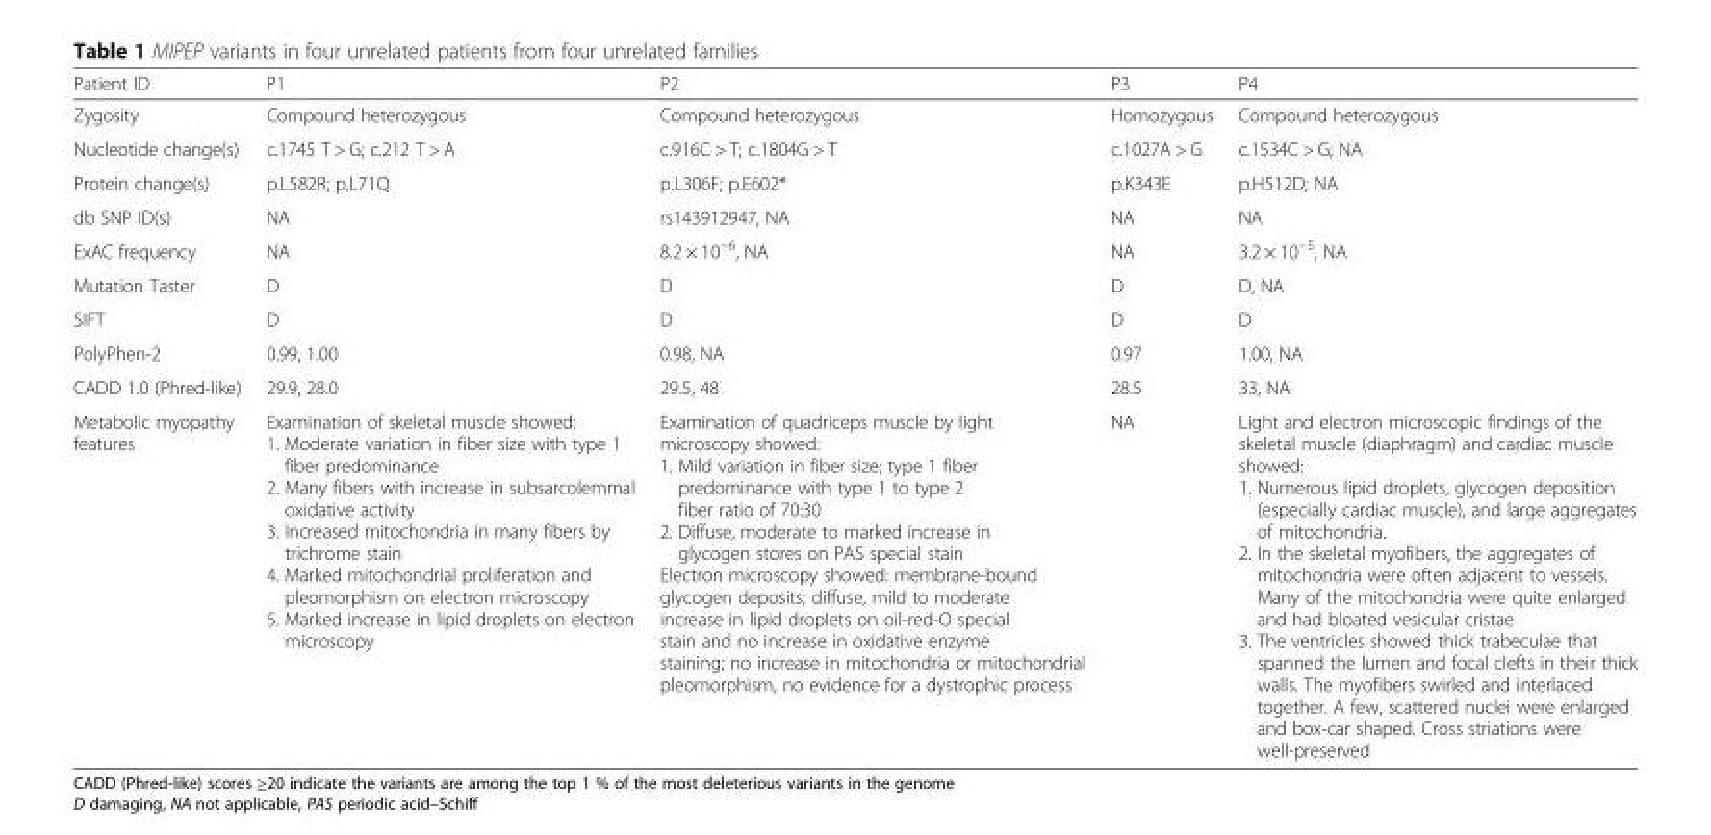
<table><thead><tr><td>Patient ID</td><td>P1</td><td>P2</td><td>P3</td><td>P4</td></tr></thead><tbody><tr><td>Zygosity</td><td>Compound heterozygous</td><td>Compound heterozygous</td><td>Homozygous</td><td>Compound heterozygous</td></tr><tr><td>Nucleotide change(s)</td><td>c.1745 T &gt; G; c.212 T &gt; A</td><td>c.916C &gt; T; c.1804G &gt; T</td><td>c.1027A &gt; G</td><td>c.1534C &gt; G; NA</td></tr><tr><td>Protein change(s)</td><td>p.L582R; p.L71Q</td><td>p.L306F; p.E602*</td><td>p.K343E</td><td>p.H512D; NA</td></tr><tr><td>db SNP ID(s)</td><td>NA</td><td>rs143912947, NA</td><td>NA</td><td>NA</td></tr><tr><td>ExAC frequency</td><td>NA</td><td>8.2 × 10<sup>−6</sup>, NA</td><td>NA</td><td>3.2 × 10<sup>−5</sup>, NA</td></tr><tr><td>Mutation Taster</td><td>D</td><td>D</td><td>D</td><td>D, NA</td></tr><tr><td>SIFT</td><td>D</td><td>D</td><td>D</td><td>D</td></tr><tr><td>PolyPhen-2</td><td>0.99, 1.00</td><td>0.98, NA</td><td>0.97</td><td>1.00, NA</td></tr><tr><td>CADD 1.0 (Phred-like)</td><td>29.9, 28.0</td><td>29.5, 48</td><td>28.5</td><td>33, NA</td></tr><tr><td>Metabolic myopathy features</td><td>Examination of skeletal muscle showed: 1. Moderate variation in fiber size with type 1 fiber predominance 2. Many fibers with increase in subsarcolemmal oxidative activity 3. Increased mitochondria in many fibers by trichrome stain 4. Marked mitochondrial proliferation and pleomorphism on electron microscopy 5. Marked increase in lipid droplets on electron microscopy</td><td>Examination of quadriceps muscle by light microscopy showed: 1. Mild variation in fiber size; type 1 fiber predominance with type 1 to type 2 fiber ratio of 70:30 2. Diffuse, moderate to marked increase in glycogen stores on PAS special stain Electron microscopy showed: membrane-bound glycogen deposits; diffuse, mild to moderate increase in lipid droplets on oil-red-O special stain and no increase in oxidative enzyme staining; no increase in mitochondria or mitochondrial pleomorphism, no evidence for a dystrophic process</td><td>NA</td><td>Light and electron microscopic findings of the skeletal muscle (diaphragm) and cardiac muscle showed: 1. Numerous lipid droplets, glycogen deposition (especially cardiac muscle), and large aggregates of mitochondria. 2. In the skeletal myofibers, the aggregates of mitochondria were often adjacent to vessels. Many of the mitochondria were quite enlarged and had bloated vesicular cristae 3. The ventricles showed thick trabeculae that spanned the lumen and focal clefts in their thick walls. The myofibers swirled and interlaced together. A few, scattered nuclei were enlarged and box-car shaped. Cross striations were well-preserved</td></tr></tbody></table>